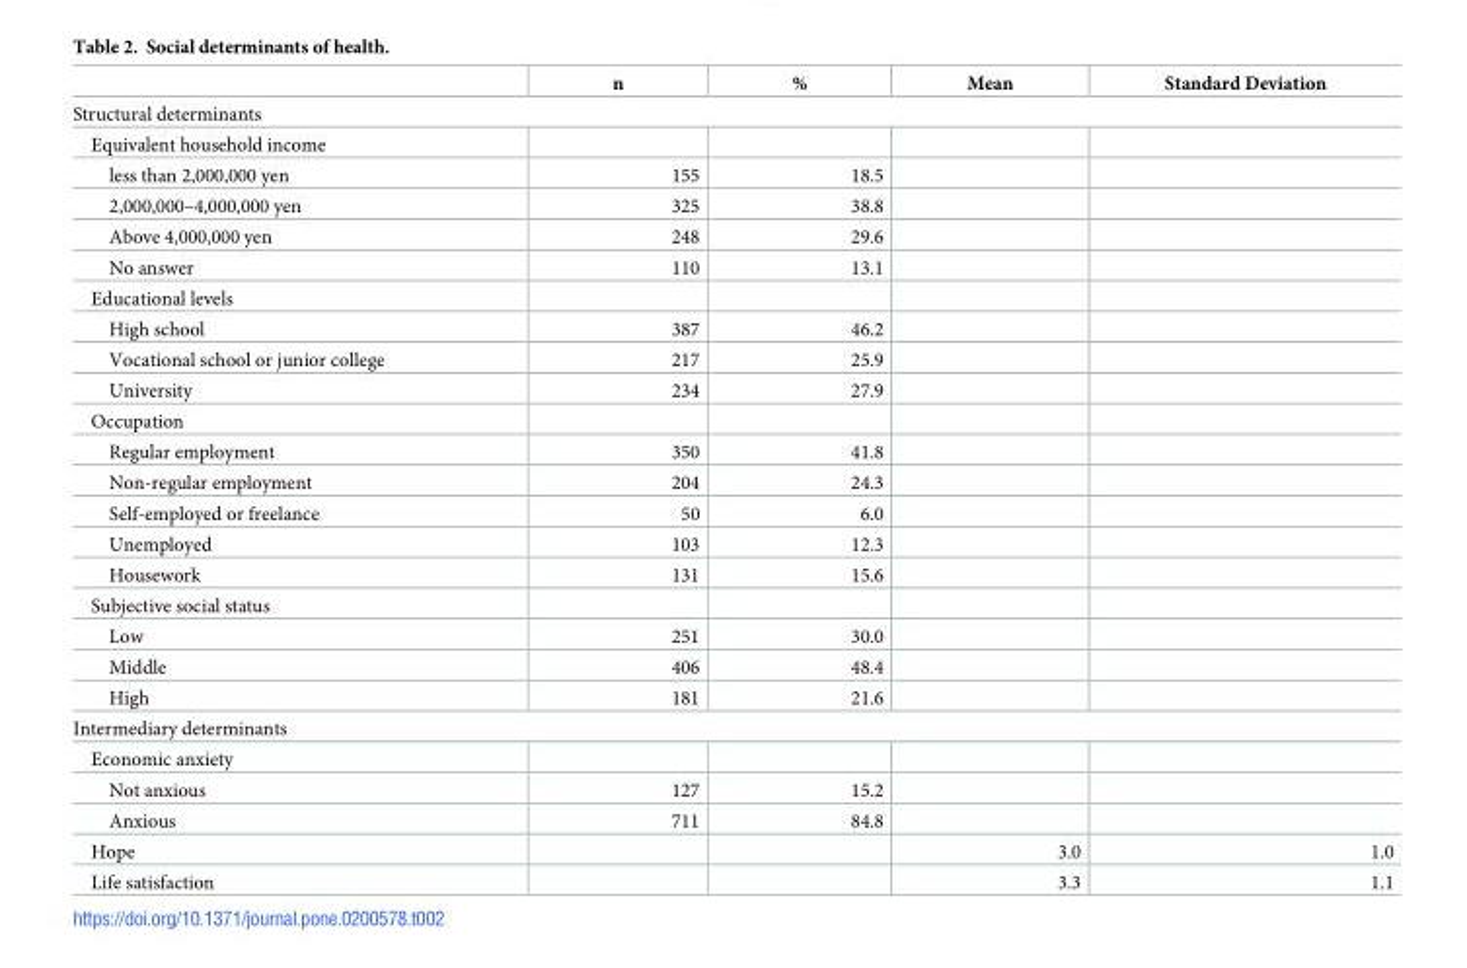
<table><thead><tr><td></td><td>n</td><td>%</td><td>Mean</td><td>Standard Deviation</td></tr></thead><tbody><tr><td colspan="5">Structural determinants</td></tr><tr><td colspan="5">Equivalent household income</td></tr><tr><td>less than 2,000,000 yen</td><td>155</td><td>18.5</td><td></td><td></td></tr><tr><td>2,000,000–4,000,000 yen</td><td>325</td><td>38.8</td><td></td><td></td></tr><tr><td>Above 4,000,000 yen</td><td>248</td><td>29.6</td><td></td><td></td></tr><tr><td>No answer</td><td>110</td><td>13.1</td><td></td><td></td></tr><tr><td colspan="5">Educational levels</td></tr><tr><td>High school</td><td>387</td><td>46.2</td><td></td><td></td></tr><tr><td>Vocational school or junior college</td><td>217</td><td>25.9</td><td></td><td></td></tr><tr><td>University</td><td>234</td><td>27.9</td><td></td><td></td></tr><tr><td colspan="5">Occupation</td></tr><tr><td>Regular employment</td><td>350</td><td>41.8</td><td></td><td></td></tr><tr><td>Non-regular employment</td><td>204</td><td>24.3</td><td></td><td></td></tr><tr><td>Self-employed or freelance</td><td>50</td><td>6.0</td><td></td><td></td></tr><tr><td>Unemployed</td><td>103</td><td>12.3</td><td></td><td></td></tr><tr><td>Housework</td><td>131</td><td>15.6</td><td></td><td></td></tr><tr><td colspan="5">Subjective social status</td></tr><tr><td>Low</td><td>251</td><td>30.0</td><td></td><td></td></tr><tr><td>Middle</td><td>406</td><td>48.4</td><td></td><td></td></tr><tr><td>High</td><td>181</td><td>21.6</td><td></td><td></td></tr><tr><td colspan="5">Intermediary determinants</td></tr><tr><td colspan="5">Economic anxiety</td></tr><tr><td>Not anxious</td><td>127</td><td>15.2</td><td></td><td></td></tr><tr><td>Anxious</td><td>711</td><td>84.8</td><td></td><td></td></tr><tr><td>Hope</td><td></td><td></td><td>3.0</td><td>1.0</td></tr><tr><td>Life satisfaction</td><td></td><td></td><td>3.3</td><td>1.1</td></tr></tbody></table>